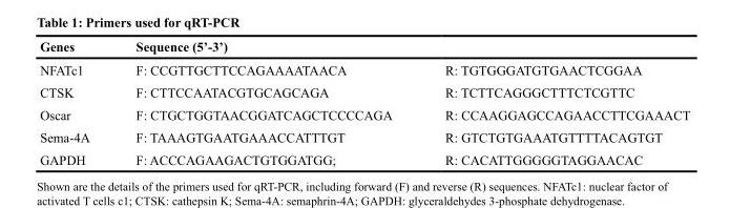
<table><thead><tr><td>Genes</td><td>Sequence (5’-3’)</td><td></td></tr></thead><tbody><tr><td>NFATc1</td><td>F: CCGTTGCTTCCAGAAAATAACA</td><td>R: TGTGGGATGTGAACTCGGAA</td></tr><tr><td>CTSK</td><td>F: CTTCCAATACGTGCAGCAGA</td><td>R: TCTTCAGGGCTTTCTCGTTC</td></tr><tr><td>Oscar</td><td>F: CTGCTGGTAACGGATCAGCTCCCCAGA</td><td>R: CCAAGGAGCCAGAACCTTCGAAACT</td></tr><tr><td>Sema-4A</td><td>F: TAAAGTGAATGAAACCATTTGT</td><td>R: GTCTGTGAAATGTTTTACAGTGT</td></tr><tr><td>GAPDH</td><td>F: ACCCAGAAGACTGTGGATGG;</td><td>R: CACATTGGGGGTAGGAACAC</td></tr></tbody></table>